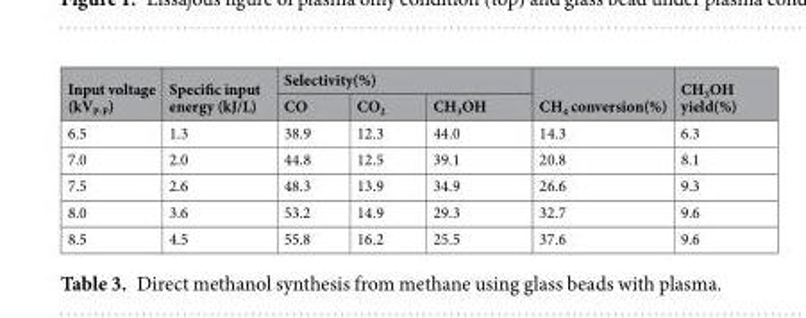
<table><thead><tr><td rowspan="2">Input voltage (kV<sub>P-P</sub>)</td><td rowspan="2">Specific input energy (kJ/L)</td><td colspan="3">Selectivity(%)</td><td rowspan="2">CH<sub>4</sub> conversion(%)</td><td rowspan="2">CH<sub>3</sub>OH yield(%)</td></tr><tr><td>CO</td><td>CO<sub>2</sub></td><td>CH<sub>3</sub>OH</td></tr></thead><tbody><tr><td>6.5</td><td>1.3</td><td>38.9</td><td>12.3</td><td>44.0</td><td>14.3</td><td>6.3</td></tr><tr><td>7.0</td><td>2.0</td><td>44.8</td><td>12.5</td><td>39.1</td><td>20.8</td><td>8.1</td></tr><tr><td>7.5</td><td>2.6</td><td>48.3</td><td>13.9</td><td>34.9</td><td>26.6</td><td>9.3</td></tr><tr><td>8.0</td><td>3.6</td><td>53.2</td><td>14.9</td><td>29.3</td><td>32.7</td><td>9.6</td></tr><tr><td>8.5</td><td>4.5</td><td>55.8</td><td>16.2</td><td>25.5</td><td>37.6</td><td>9.6</td></tr></tbody></table>